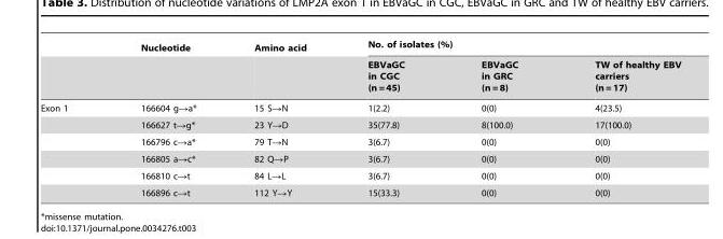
<table><thead><tr><td rowspan="2"></td><td rowspan="2">Nucleotide</td><td rowspan="2">Amino acid</td><td colspan="3">No. of isolates (%)</td></tr><tr><td>EBVaGC in CGC (n = 45)</td><td>EBVaGC in GRC (n = 8)</td><td>TW of healthy EBV carriers (n = 17)</td></tr></thead><tbody><tr><td rowspan="6">Exon 1</td><td>166604 g→a*</td><td>15 S→N</td><td>1(2.2)</td><td>0(0)</td><td>4(23.5)</td></tr><tr><td>166627 t→g*</td><td>23 Y→D</td><td>35(77.8)</td><td>8(100.0)</td><td>17(100.0)</td></tr><tr><td>166796 c→a*</td><td>79 T→N</td><td>3(6.7)</td><td>0(0)</td><td>0(0)</td></tr><tr><td>166805 a→c*</td><td>82 Q→P</td><td>3(6.7)</td><td>0(0)</td><td>0(0)</td></tr><tr><td>166810 c→t</td><td>84 L→L</td><td>3(6.7)</td><td>0(0)</td><td>0(0)</td></tr><tr><td>166896 c→t</td><td>112 Y→Y</td><td>15(33.3)</td><td>0(0)</td><td>0(0)</td></tr></tbody></table>